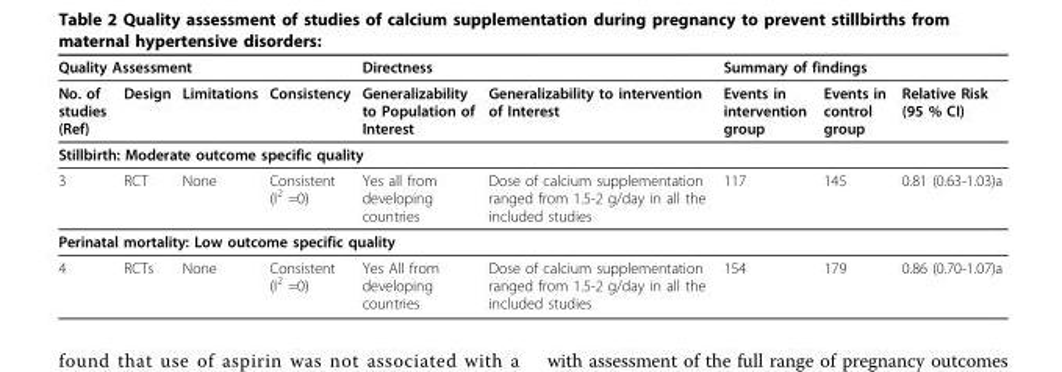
<table><thead><tr><td colspan="4">Quality Assessment</td><td colspan="2">Directness</td><td colspan="3">Summary of findings</td></tr><tr><td>No. of studies (Ref)</td><td>Design</td><td>Limitations</td><td>Consistency</td><td>Generalizability to Population of Interest</td><td>Generalizability to intervention of Interest</td><td>Events in intervention group</td><td>Events in control group</td><td>Relative Risk (95 % CI)</td></tr></thead><tbody><tr><td colspan="9">Stillbirth: Moderate outcome specific quality</td></tr><tr><td>3</td><td>RCT</td><td>None</td><td>Consistent (I<sup>2</sup> =0)</td><td>Yes all from developing countries</td><td>Dose of calcium supplementation ranged from 1.5-2 g/day in all the included studies</td><td>117</td><td>145</td><td>0.81 (0.63-1.03)a</td></tr><tr><td colspan="9">Perinatal mortality: Low outcome specific quality</td></tr><tr><td>4</td><td>RCTs</td><td>None</td><td>Consistent (I<sup>2</sup> =0)</td><td>Yes All from developing countries</td><td>Dose of calcium supplementation ranged from 1.5-2 g/day in all the included studies</td><td>154</td><td>179</td><td>0.86 (0.70-1.07)a</td></tr></tbody></table>